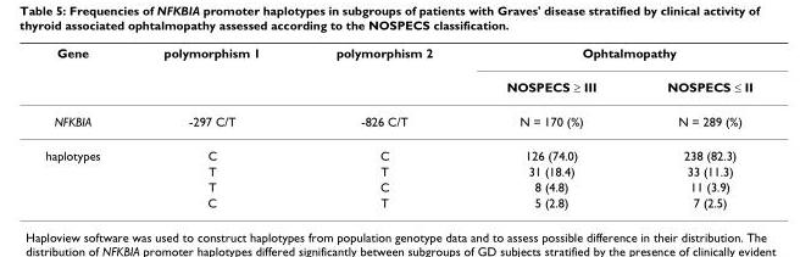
<table><thead><tr><td rowspan="2">Gene</td><td rowspan="2">polymorphism 1</td><td rowspan="2">polymorphism 2</td><td colspan="2">Ophtalmopathy</td></tr><tr><td>NOSPECS ≥ III</td><td>NOSPECS ≤ II</td></tr></thead><tbody><tr><td>NFKBIA</td><td>-297 C/T</td><td>-826 C/T</td><td>N = 170 (%)</td><td>N = 289 (%)</td></tr><tr><td rowspan="4">haplotypes</td><td>C</td><td>C</td><td>126 (74.0)</td><td>238 (82.3)</td></tr><tr><td>T</td><td>T</td><td>31 (18.4)</td><td>33 (11.3)</td></tr><tr><td>T</td><td>C</td><td>8 (4.8)</td><td>11 (3.9)</td></tr><tr><td>C</td><td>T</td><td>5 (2.8)</td><td>7 (2.5)</td></tr></tbody></table>